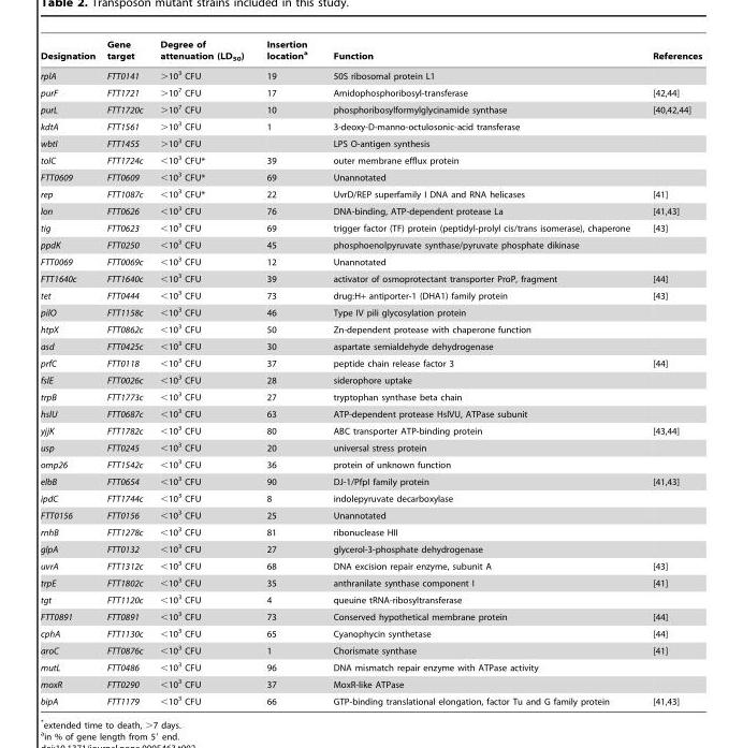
<table><thead><tr><td>Designation</td><td>Gene target</td><td>Degree of attenuation (LD<sub>50</sub>)</td><td>Insertion location<sup>a</sup></td><td>Function</td><td>References</td></tr></thead><tbody><tr><td>rplA</td><td>FTT0141</td><td>&gt;10<sup>3</sup> CFU</td><td>19</td><td>50S ribosomal protein L1</td><td></td></tr><tr><td>purF</td><td>FTT1721</td><td>&gt;10<sup>7</sup> CFU</td><td>17</td><td>Amidophosphoribosyl-transferase</td><td>[42,44]</td></tr><tr><td>purL</td><td>FTT1720c</td><td>&gt;10<sup>7</sup> CFU</td><td>10</td><td>phosphoribosylformylglycinamide synthase</td><td>[40,42,44]</td></tr><tr><td>kdtA</td><td>FTT1561</td><td>&gt;10<sup>3</sup> CFU</td><td>1</td><td>3-deoxy-D-manno-octulosonic-acid transferase</td><td></td></tr><tr><td>wbtI</td><td>FTT1455</td><td>&gt;10<sup>3</sup> CFU</td><td></td><td>LPS O-antigen synthesis</td><td></td></tr><tr><td>tolC</td><td>FTT1724c</td><td>&lt;10<sup>3</sup> CFU*</td><td>39</td><td>outer membrane efflux protein</td><td></td></tr><tr><td>FTT0609</td><td>FTT0609</td><td>&lt;10<sup>3</sup> CFU*</td><td>69</td><td>Unannotated</td><td></td></tr><tr><td>rep</td><td>FTT1087c</td><td>&lt;10<sup>3</sup> CFU*</td><td>22</td><td>UvrD/REP superfamily I DNA and RNA helicases</td><td>[41]</td></tr><tr><td>lon</td><td>FTT0626</td><td>&lt;10<sup>3</sup> CFU</td><td>76</td><td>DNA-binding, ATP-dependent protease La</td><td>[41,43]</td></tr><tr><td>tig</td><td>FTT0623</td><td>&lt;10<sup>3</sup> CFU</td><td>69</td><td>trigger factor (TF) protein (peptidyl-prolyl cis/trans isomerase), chaperone</td><td>[43]</td></tr><tr><td>ppdK</td><td>FTT0250</td><td>&lt;10<sup>3</sup> CFU</td><td>45</td><td>phosphoenolpyruvate synthase/pyruvate phosphate dikinase</td><td></td></tr><tr><td>FTT0069</td><td>FTT0069c</td><td>&lt;10<sup>3</sup> CFU</td><td>12</td><td>Unannotated</td><td></td></tr><tr><td>FTT1640c</td><td>FTT1640c</td><td>&lt;10<sup>3</sup> CFU</td><td>39</td><td>activator of osmoprotectant transporter ProP, fragment</td><td>[44]</td></tr><tr><td>tet</td><td>FTT0444</td><td>&lt;10<sup>3</sup> CFU</td><td>73</td><td>drug:H+ antiporter-1 (DHA1) family protein</td><td>[43]</td></tr><tr><td>pilO</td><td>FTT1158c</td><td>&lt;10<sup>3</sup> CFU</td><td>46</td><td>Type IV pili glycosylation protein</td><td></td></tr><tr><td>htpX</td><td>FTT0862c</td><td>&lt;10<sup>3</sup> CFU</td><td>50</td><td>Zn-dependent protease with chaperone function</td><td></td></tr><tr><td>asd</td><td>FTT0425c</td><td>&lt;10<sup>3</sup> CFU</td><td>30</td><td>aspartate semialdehyde dehydrogenase</td><td></td></tr><tr><td>prfC</td><td>FTT0118</td><td>&lt;10<sup>3</sup> CFU</td><td>37</td><td>peptide chain release factor 3</td><td>[44]</td></tr><tr><td>fslE</td><td>FTT0026c</td><td>&lt;10<sup>3</sup> CFU</td><td>28</td><td>siderophore uptake</td><td></td></tr><tr><td>trpB</td><td>FTT1773c</td><td>&lt;10<sup>3</sup> CFU</td><td>27</td><td>tryptophan synthase beta chain</td><td></td></tr><tr><td>hslU</td><td>FTT0687c</td><td>&lt;10<sup>3</sup> CFU</td><td>63</td><td>ATP-dependent protease HslVU, ATPase subunit</td><td></td></tr><tr><td>yjjK</td><td>FTT1782c</td><td>&lt;10<sup>3</sup> CFU</td><td>80</td><td>ABC transporter ATP-binding protein</td><td>[43,44]</td></tr><tr><td>usp</td><td>FTT0245</td><td>&lt;10<sup>3</sup> CFU</td><td>20</td><td>universal stress protein</td><td></td></tr><tr><td>omp26</td><td>FTT1542c</td><td>&lt;10<sup>3</sup> CFU</td><td>36</td><td>protein of unknown function</td><td></td></tr><tr><td>elbB</td><td>FTT0654</td><td>&lt;10<sup>3</sup> CFU</td><td>90</td><td>DJ-1/PfpI family protein</td><td>[41,43]</td></tr><tr><td>ipdC</td><td>FTT1744c</td><td>&lt;10<sup>3</sup> CFU</td><td>8</td><td>indolepyruvate decarboxylase</td><td></td></tr><tr><td>FTT0156</td><td>FTT0156</td><td>&lt;10<sup>3</sup> CFU</td><td>25</td><td>Unannotated</td><td></td></tr><tr><td>rnhB</td><td>FTT1278c</td><td>&lt;10<sup>3</sup> CFU</td><td>81</td><td>ribonuclease HII</td><td></td></tr><tr><td>glpA</td><td>FTT0132</td><td>&lt;10<sup>3</sup> CFU</td><td>27</td><td>glycerol-3-phosphate dehydrogenase</td><td></td></tr><tr><td>uvrA</td><td>FTT1312c</td><td>&lt;10<sup>3</sup> CFU</td><td>68</td><td>DNA excision repair enzyme, subunit A</td><td>[43]</td></tr><tr><td>trpE</td><td>FTT1802c</td><td>&lt;10<sup>3</sup> CFU</td><td>35</td><td>anthranilate synthase component I</td><td>[41]</td></tr><tr><td>tgt</td><td>FTT1120c</td><td>&lt;10<sup>3</sup> CFU</td><td>4</td><td>queuine tRNA-ribosyltransferase</td><td></td></tr><tr><td>FTT0891</td><td>FTT0891</td><td>&lt;10<sup>3</sup> CFU</td><td>73</td><td>Conserved hypothetical membrane protein</td><td>[44]</td></tr><tr><td>cphA</td><td>FTT1130c</td><td>&lt;10<sup>3</sup> CFU</td><td>65</td><td>Cyanophycin synthetase</td><td>[44]</td></tr><tr><td>aroC</td><td>FTT0876c</td><td>&lt;10<sup>3</sup> CFU</td><td>1</td><td>Chorismate synthase</td><td>[41]</td></tr><tr><td>mutL</td><td>FTT0486</td><td>&lt;10<sup>3</sup> CFU</td><td>96</td><td>DNA mismatch repair enzyme with ATPase activity</td><td></td></tr><tr><td>moxR</td><td>FTT0290</td><td>&lt;10<sup>3</sup> CFU</td><td>37</td><td>MoxR-like ATPase</td><td></td></tr><tr><td>bipA</td><td>FTT1179</td><td>&lt;10<sup>3</sup> CFU</td><td>66</td><td>GTP-binding translational elongation, factor Tu and G family protein</td><td>[41,43]</td></tr></tbody></table>